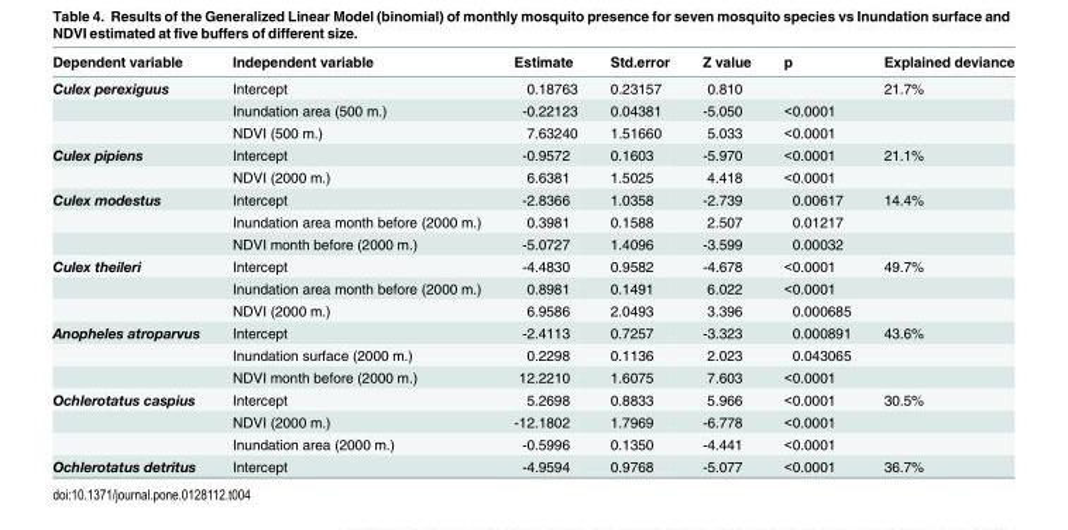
<table><thead><tr><td>Dependent variable</td><td>Independent variable</td><td>Estimate</td><td>Std.error</td><td>Z value</td><td>p</td><td>Explained deviance</td></tr></thead><tbody><tr><td rowspan="3">Culex perexiguus</td><td>Intercept</td><td>0.18763</td><td>0.23157</td><td>0.810</td><td></td><td>21.7%</td></tr><tr><td>Inundation area (500 m.)</td><td>-0.22123</td><td>0.04381</td><td>-5.050</td><td>&lt;0.0001</td><td></td></tr><tr><td>NDVI (500 m.)</td><td>7.63240</td><td>1.51660</td><td>5.033</td><td>&lt;0.0001</td><td></td></tr><tr><td rowspan="2">Culex pipiens</td><td>Intercept</td><td>-0.9572</td><td>0.1603</td><td>-5.970</td><td>&lt;0.0001</td><td>21.1%</td></tr><tr><td>NDVI (2000 m.)</td><td>6.6381</td><td>1.5025</td><td>4.418</td><td>&lt;0.0001</td><td></td></tr><tr><td rowspan="3">Culex modestus</td><td>Intercept</td><td>-2.8366</td><td>1.0358</td><td>-2.739</td><td>0.00617</td><td>14.4%</td></tr><tr><td>Inundation area month before (2000 m.)</td><td>0.3981</td><td>0.1588</td><td>2.507</td><td>0.01217</td><td></td></tr><tr><td>NDVI month before (2000 m.)</td><td>-5.0727</td><td>1.4096</td><td>-3.599</td><td>0.00032</td><td></td></tr><tr><td rowspan="3">Culex theileri</td><td>Intercept</td><td>-4.4830</td><td>0.9582</td><td>-4.678</td><td>&lt;0.0001</td><td>49.7%</td></tr><tr><td>Inundation area month before (2000 m.)</td><td>0.8981</td><td>0.1491</td><td>6.022</td><td>&lt;0.0001</td><td></td></tr><tr><td>NDVI (2000 m.)</td><td>6.9586</td><td>2.0493</td><td>3.396</td><td>0.000685</td><td></td></tr><tr><td rowspan="3">Anopheles atroparvus</td><td>Intercept</td><td>-2.4113</td><td>0.7257</td><td>-3.323</td><td>0.000891</td><td>43.6%</td></tr><tr><td>Inundation surface (2000 m.)</td><td>0.2298</td><td>0.1136</td><td>2.023</td><td>0.043065</td><td></td></tr><tr><td>NDVI month before (2000 m.)</td><td>12.2210</td><td>1.6075</td><td>7.603</td><td>&lt;0.0001</td><td></td></tr><tr><td rowspan="3">Ochlerotatus caspius</td><td>Intercept</td><td>5.2698</td><td>0.8833</td><td>5.966</td><td>&lt;0.0001</td><td>30.5%</td></tr><tr><td>NDVI (2000 m.)</td><td>-12.1802</td><td>1.7969</td><td>-6.778</td><td>&lt;0.0001</td><td></td></tr><tr><td>Inundation area (2000 m.)</td><td>-0.5996</td><td>0.1350</td><td>-4.441</td><td>&lt;0.0001</td><td></td></tr><tr><td>Ochlerotatus detritus</td><td>Intercept</td><td>-4.9594</td><td>0.9768</td><td>-5.077</td><td>&lt;0.0001</td><td>36.7%</td></tr></tbody></table>